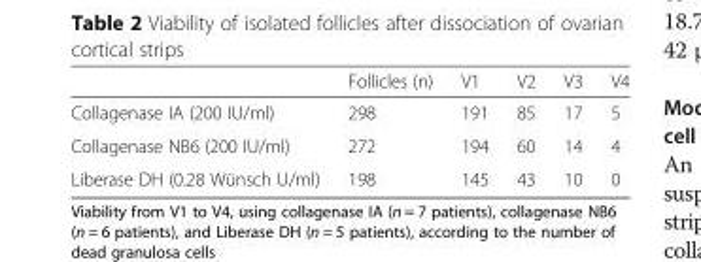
<table><thead><tr><td></td><td>Follicles (n)</td><td>V1</td><td>V2</td><td>V3</td><td>V4</td></tr></thead><tbody><tr><td>Collagenase IA (200 IU/ml)</td><td>298</td><td>191</td><td>85</td><td>17</td><td>5</td></tr><tr><td>Collagenase NB6 (200 IU/ml)</td><td>272</td><td>194</td><td>60</td><td>14</td><td>4</td></tr><tr><td>Liberase DH (0.28 Wünsch U/ml)</td><td>198</td><td>145</td><td>43</td><td>10</td><td>0</td></tr></tbody></table>